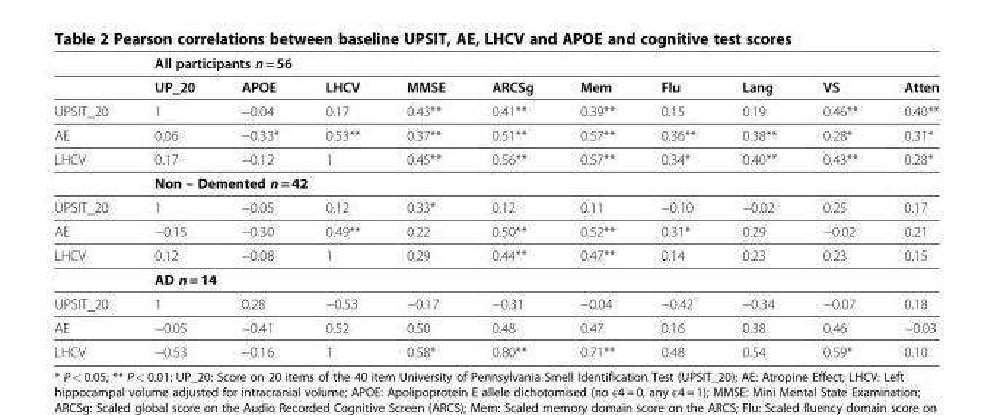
<table><thead><tr><td rowspan="2"></td><td colspan="10">All participants n = 56</td></tr><tr><td>UP_20</td><td>APOE</td><td>LHCV</td><td>MMSE</td><td>ARCSg</td><td>Mem</td><td>Flu</td><td>Lang</td><td>VS</td><td>Atten</td></tr></thead><tbody><tr><td>UPSIT_20</td><td>1</td><td>−0.04</td><td>0.17</td><td>0.43**</td><td>0.41**</td><td>0.39**</td><td>0.15</td><td>0.19</td><td>0.46**</td><td>0.40**</td></tr><tr><td>AE</td><td>0.06</td><td>−0.33*</td><td>0.53**</td><td>0.37**</td><td>0.51**</td><td>0.57**</td><td>0.36**</td><td>0.38**</td><td>0.28*</td><td>0.31*</td></tr><tr><td rowspan="2">LHCV</td><td>0.17</td><td>−0.12</td><td>1</td><td>0.45**</td><td>0.56**</td><td>0.57**</td><td>0.34*</td><td>0.40**</td><td>0.43**</td><td>0.28*</td></tr><tr><td colspan="10">Non – Demented n = 42</td></tr><tr><td>UPSIT_20</td><td>1</td><td>−0.05</td><td>0.12</td><td>0.33*</td><td>0.12</td><td>0.11</td><td>−0.10</td><td>−0.02</td><td>0.25</td><td>0.17</td></tr><tr><td>AE</td><td>−0.15</td><td>−0.30</td><td>0.49**</td><td>0.22</td><td>0.50**</td><td>0.52**</td><td>0.31*</td><td>0.29</td><td>−0.02</td><td>0.21</td></tr><tr><td rowspan="2">LHCV</td><td>0.12</td><td>−0.08</td><td>1</td><td>0.29</td><td>0.44**</td><td>0.47**</td><td>0.14</td><td>0.23</td><td>0.23</td><td>0.15</td></tr><tr><td colspan="10">AD n = 14</td></tr><tr><td>UPSIT_20</td><td>1</td><td>0.28</td><td>−0.53</td><td>−0.17</td><td>−0.31</td><td>−0.04</td><td>−0.42</td><td>−0.34</td><td>−0.07</td><td>0.18</td></tr><tr><td>AE</td><td>−0.05</td><td>−0.41</td><td>0.52</td><td>0.50</td><td>0.48</td><td>0.47</td><td>0.16</td><td>0.38</td><td>0.46</td><td>−0.03</td></tr><tr><td>LHCV</td><td>−0.53</td><td>−0.16</td><td>1</td><td>0.58*</td><td>0.80**</td><td>0.71**</td><td>0.48</td><td>0.54</td><td>0.59*</td><td>0.10</td></tr></tbody></table>